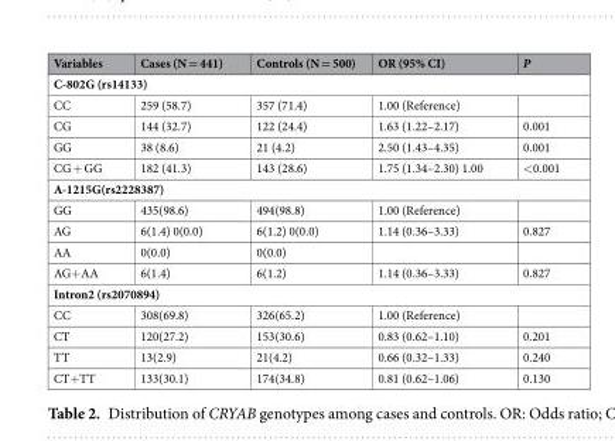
<table><thead><tr><td>Variables</td><td>Cases (N = 441)</td><td>Controls (N = 500)</td><td>OR (95% CI)</td><td>P</td></tr></thead><tbody><tr><td colspan="5">C-802G (rs14133)</td></tr><tr><td>CC</td><td>259 (58.7)</td><td>357 (71.4)</td><td>1.00 (Reference)</td><td></td></tr><tr><td>CG</td><td>144 (32.7)</td><td>122 (24.4)</td><td>1.63 (1.22–2.17)</td><td>0.001</td></tr><tr><td>GG</td><td>38 (8.6)</td><td>21 (4.2)</td><td>2.50 (1.43–4.35)</td><td>0.001</td></tr><tr><td>CG + GG</td><td>182 (41.3)</td><td>143 (28.6)</td><td>1.75 (1.34–2.30) 1.00</td><td>&lt;0.001</td></tr><tr><td colspan="5">A-1215G(rs2228387)</td></tr><tr><td>GG</td><td>435(98.6)</td><td>494(98.8)</td><td>1.00 (Reference)</td><td></td></tr><tr><td>AG</td><td>6(1.4) 0(0.0)</td><td>6(1.2) 0(0.0)</td><td>1.14 (0.36–3.33)</td><td>0.827</td></tr><tr><td>AA</td><td>0(0.0)</td><td>0(0.0)</td><td></td><td></td></tr><tr><td>AG+AA</td><td>6(1.4)</td><td>6(1.2)</td><td>1.14 (0.36–3.33)</td><td>0.827</td></tr><tr><td colspan="5">Intron2 (rs2070894)</td></tr><tr><td>CC</td><td>308(69.8)</td><td>326(65.2)</td><td>1.00 (Reference)</td><td></td></tr><tr><td>CT</td><td>120(27.2)</td><td>153(30.6)</td><td>0.83 (0.62–1.10)</td><td>0.201</td></tr><tr><td>TT</td><td>13(2.9)</td><td>21(4.2)</td><td>0.66 (0.32–1.33)</td><td>0.240</td></tr><tr><td>CT+TT</td><td>133(30.1)</td><td>174(34.8)</td><td>0.81 (0.62–1.06)</td><td>0.130</td></tr></tbody></table>